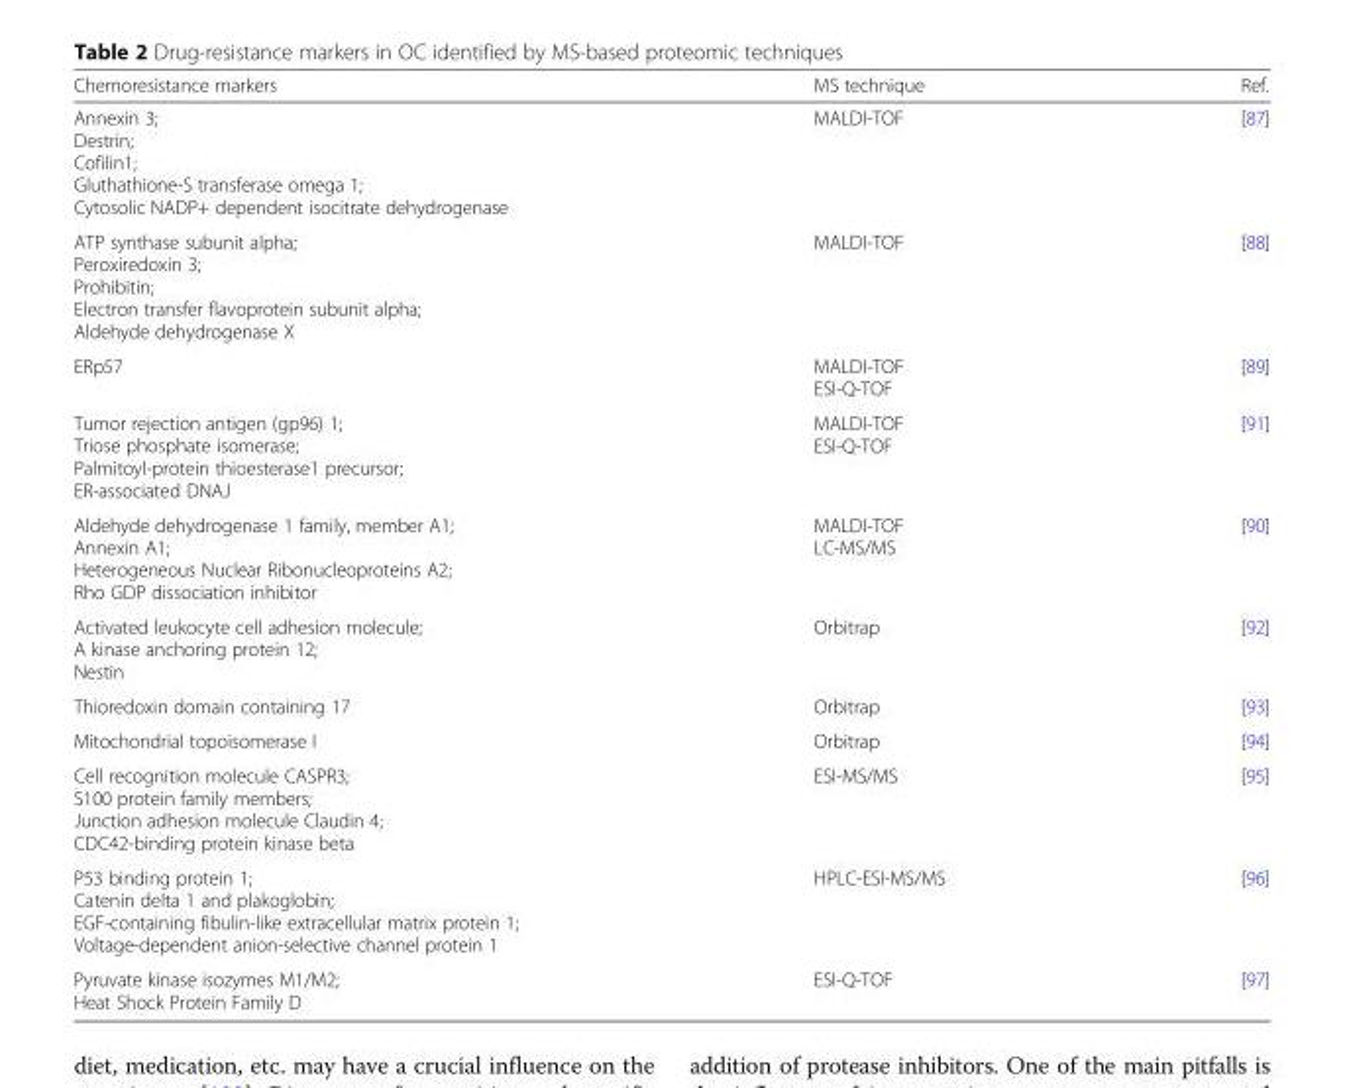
<table><thead><tr><td>Chemoresistance markers</td><td>MS technique</td><td>Ref.</td></tr></thead><tbody><tr><td>Annexin 3; Destrin; Cofilin1; Gluthathione-S transferase omega 1; Cytosolic NADP+ dependent isocitrate dehydrogenase</td><td>MALDI-TOF</td><td>[87]</td></tr><tr><td>ATP synthase subunit alpha; Peroxiredoxin 3; Prohibitin; Electron transfer flavoprotein subunit alpha; Aldehyde dehydrogenase X</td><td>MALDI-TOF</td><td>[88]</td></tr><tr><td>ERp57</td><td>MALDI-TOF ESI-Q-TOF</td><td>[89]</td></tr><tr><td>Tumor rejection antigen (gp96) 1; Triose phosphate isomerase; Palmitoyl-protein thioesterase1 precursor; ER-associated DNAJ</td><td>MALDI-TOF ESI-Q-TOF</td><td>[91]</td></tr><tr><td>Aldehyde dehydrogenase 1 family, member A1; Annexin A1; Heterogeneous Nuclear Ribonucleoproteins A2; Rho GDP dissociation inhibitor</td><td>MALDI-TOF LC-MS/MS</td><td>[90]</td></tr><tr><td>Activated leukocyte cell adhesion molecule; A kinase anchoring protein 12; Nestin</td><td>Orbitrap</td><td>[92]</td></tr><tr><td>Thioredoxin domain containing 17</td><td>Orbitrap</td><td>[93]</td></tr><tr><td>Mitochondrial topoisomerase I</td><td>Orbitrap</td><td>[94]</td></tr><tr><td>Cell recognition molecule CASPR3; S100 protein family members; Junction adhesion molecule Claudin 4; CDC42-binding protein kinase beta</td><td>ESI-MS/MS</td><td>[95]</td></tr><tr><td>P53 binding protein 1; Catenin delta 1 and plakoglobin; EGF-containing fibulin-like extracellular matrix protein 1; Voltage-dependent anion-selective channel protein 1</td><td>HPLC-ESI-MS/MS</td><td>[96]</td></tr><tr><td>Pyruvate kinase isozymes M1/M2; Heat Shock Protein Family D</td><td>ESI-Q-TOF</td><td>[97]</td></tr></tbody></table>